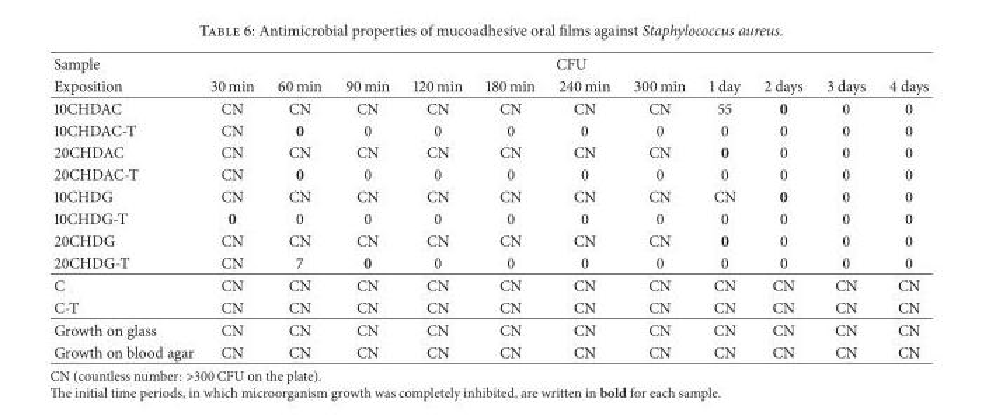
<table><thead><tr><td rowspan="2">Sample Exposition</td><td colspan="11">CFU</td></tr><tr><td>30 min</td><td>60 min</td><td>90 min</td><td>120 min</td><td>180 min</td><td>240 min</td><td>300 min</td><td>1 day</td><td>2 days</td><td>3 days</td><td>4 days</td></tr></thead><tbody><tr><td>10CHDAC</td><td>CN</td><td>CN</td><td>CN</td><td>CN</td><td>CN</td><td>CN</td><td>CN</td><td>55</td><td>0</td><td>0</td><td>0</td></tr><tr><td>10CHDAC-T</td><td>CN</td><td>0</td><td>0</td><td>0</td><td>0</td><td>0</td><td>0</td><td>0</td><td>0</td><td>0</td><td>0</td></tr><tr><td>20CHDAC</td><td>CN</td><td>CN</td><td>CN</td><td>CN</td><td>CN</td><td>CN</td><td>CN</td><td>0</td><td>0</td><td>0</td><td>0</td></tr><tr><td>20CHDAC-T</td><td>CN</td><td>0</td><td>0</td><td>0</td><td>0</td><td>0</td><td>0</td><td>0</td><td>0</td><td>0</td><td>0</td></tr><tr><td>10CHDG</td><td>CN</td><td>CN</td><td>CN</td><td>CN</td><td>CN</td><td>CN</td><td>CN</td><td>CN</td><td>0</td><td>0</td><td>0</td></tr><tr><td>10CHDG-T</td><td>0</td><td>0</td><td>0</td><td>0</td><td>0</td><td>0</td><td>0</td><td>0</td><td>0</td><td>0</td><td>0</td></tr><tr><td>20CHDG</td><td>CN</td><td>CN</td><td>CN</td><td>CN</td><td>CN</td><td>CN</td><td>CN</td><td>0</td><td>0</td><td>0</td><td>0</td></tr><tr><td>20CHDG-T</td><td>CN</td><td>7</td><td>0</td><td>0</td><td>0</td><td>0</td><td>0</td><td>0</td><td>0</td><td>0</td><td>0</td></tr><tr><td>C</td><td>CN</td><td>CN</td><td>CN</td><td>CN</td><td>CN</td><td>CN</td><td>CN</td><td>CN</td><td>CN</td><td>CN</td><td>CN</td></tr><tr><td>C-T</td><td>CN</td><td>CN</td><td>CN</td><td>CN</td><td>CN</td><td>CN</td><td>CN</td><td>CN</td><td>CN</td><td>CN</td><td>CN</td></tr><tr><td>Growth on glass</td><td>CN</td><td>CN</td><td>CN</td><td>CN</td><td>CN</td><td>CN</td><td>CN</td><td>CN</td><td>CN</td><td>CN</td><td>CN</td></tr><tr><td>Growth on blood agar</td><td>CN</td><td>CN</td><td>CN</td><td>CN</td><td>CN</td><td>CN</td><td>CN</td><td>CN</td><td>CN</td><td>CN</td><td>CN</td></tr></tbody></table>